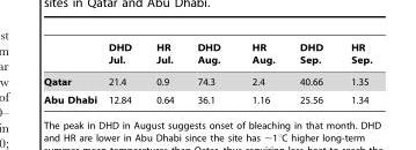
<table><thead><tr><td></td><td>DHD Jul.</td><td>HR Jul.</td><td>DHD Aug.</td><td>HR Aug.</td><td>DHD Sep.</td><td>HR Sep.</td></tr></thead><tbody><tr><td>Qatar</td><td>21.4</td><td>0.9</td><td>74.3</td><td>2.4</td><td>40.66</td><td>1.35</td></tr><tr><td>Abu Dhabi</td><td>12.84</td><td>0.64</td><td>36.1</td><td>1.16</td><td>25.56</td><td>1.34</td></tr></tbody></table>